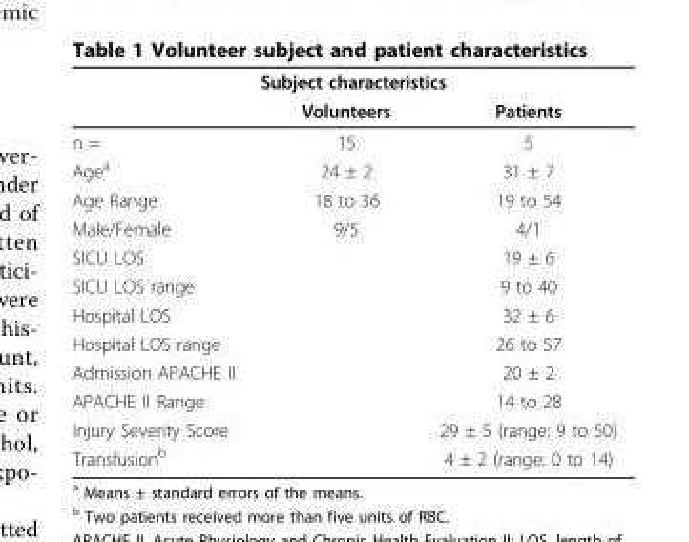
<table><thead><tr><td colspan="3">Subject characteristics</td></tr><tr><td></td><td>Volunteers</td><td>Patients</td></tr></thead><tbody><tr><td>n =</td><td>15</td><td>5</td></tr><tr><td>Age<sup>a</sup></td><td>24 ± 2</td><td>31 ± 7</td></tr><tr><td>Age Range</td><td>18 to 36</td><td>19 to 54</td></tr><tr><td>Male/Female</td><td>9/5</td><td>4/1</td></tr><tr><td>SICU LOS</td><td></td><td>19 ± 6</td></tr><tr><td>SICU LOS range</td><td></td><td>9 to 40</td></tr><tr><td>Hospital LOS</td><td></td><td>32 ± 6</td></tr><tr><td>Hospital LOS range</td><td></td><td>26 to 57</td></tr><tr><td>Admission APACHE II</td><td></td><td>20 ± 2</td></tr><tr><td>APACHE II Range</td><td></td><td>14 to 28</td></tr><tr><td>Injury Severity Score</td><td></td><td>29 ± 5 (range: 9 to 50)</td></tr><tr><td>Transfusion<sup>b</sup></td><td></td><td>4 ± 2 (range: 0 to 14)</td></tr></tbody></table>